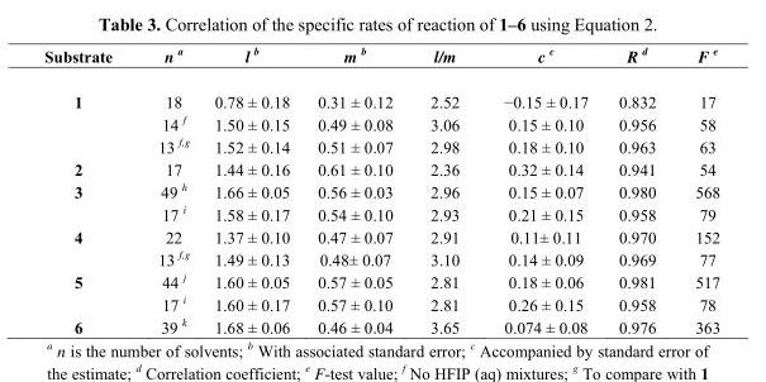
<table><thead><tr><td>Substrate</td><td>n <sup>a</sup></td><td>l <sup>b</sup></td><td>m <sup>b</sup></td><td>l/m</td><td>c <sup>c</sup></td><td>R <sup>d</sup></td><td>F <sup>e</sup></td></tr></thead><tbody><tr><td rowspan="3">1</td><td>18</td><td>0.78 ± 0.18</td><td>0.31 ± 0.12</td><td>2.52</td><td>−0.15 ± 0.17</td><td>0.832</td><td>17</td></tr><tr><td>14 f</td><td>1.50 ± 0.15</td><td>0.49 ± 0.08</td><td>3.06</td><td>0.15 ± 0.10</td><td>0.956</td><td>58</td></tr><tr><td>13 f,g</td><td>1.52 ± 0.14</td><td>0.51 ± 0.07</td><td>2.98</td><td>0.18 ± 0.10</td><td>0.963</td><td>63</td></tr><tr><td>2</td><td>17</td><td>1.44 ± 0.16</td><td>0.61 ± 0.10</td><td>2.36</td><td>0.32 ± 0.14</td><td>0.941</td><td>54</td></tr><tr><td rowspan="2">3</td><td>49 h</td><td>1.66 ± 0.05</td><td>0.56 ± 0.03</td><td>2.96</td><td>0.15 ± 0.07</td><td>0.980</td><td>568</td></tr><tr><td>17 i</td><td>1.58 ± 0.17</td><td>0.54 ± 0.10</td><td>2.93</td><td>0.21 ± 0.15</td><td>0.958</td><td>79</td></tr><tr><td rowspan="2">4</td><td>22</td><td>1.37 ± 0.10</td><td>0.47 ± 0.07</td><td>2.91</td><td>0.11± 0.11</td><td>0.970</td><td>152</td></tr><tr><td>13 f,g</td><td>1.49 ± 0.13</td><td>0.48± 0.07</td><td>3.10</td><td>0.14 ± 0.09</td><td>0.969</td><td>77</td></tr><tr><td rowspan="2">5</td><td>44 j</td><td>1.60 ± 0.05</td><td>0.57 ± 0.05</td><td>2.81</td><td>0.18 ± 0.06</td><td>0.981</td><td>517</td></tr><tr><td>17 i</td><td>1.60 ± 0.17</td><td>0.57 ± 0.10</td><td>2.81</td><td>0.26 ± 0.15</td><td>0.958</td><td>78</td></tr><tr><td>6</td><td>39 k</td><td>1.68 ± 0.06</td><td>0.46 ± 0.04</td><td>3.65</td><td>0.074 ± 0.08</td><td>0.976</td><td>363</td></tr></tbody></table>